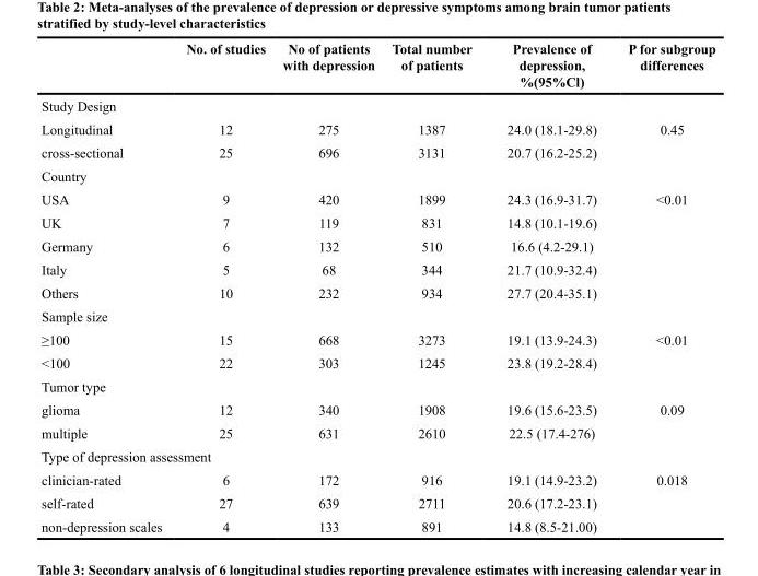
<table><thead><tr><td></td><td>No. of studies</td><td>No of patients with depression</td><td>Total number of patients</td><td>Prevalence of depression, %(95%Cl)</td><td>P for subgroup differences</td></tr></thead><tbody><tr><td colspan="6">Study Design</td></tr><tr><td>Longitudinal</td><td>12</td><td>275</td><td>1387</td><td>24.0 (18.1-29.8)</td><td>0.45</td></tr><tr><td>cross-sectional</td><td>25</td><td>696</td><td>3131</td><td>20.7 (16.2-25.2)</td><td></td></tr><tr><td colspan="6">Country</td></tr><tr><td>USA</td><td>9</td><td>420</td><td>1899</td><td>24.3 (16.9-31.7)</td><td>&lt;0.01</td></tr><tr><td>UK</td><td>7</td><td>119</td><td>831</td><td>14.8 (10.1-19.6)</td><td></td></tr><tr><td>Germany</td><td>6</td><td>132</td><td>510</td><td>16.6 (4.2-29.1)</td><td></td></tr><tr><td>Italy</td><td>5</td><td>68</td><td>344</td><td>21.7 (10.9-32.4)</td><td></td></tr><tr><td>Others</td><td>10</td><td>232</td><td>934</td><td>27.7 (20.4-35.1)</td><td></td></tr><tr><td colspan="6">Sample size</td></tr><tr><td>≥100</td><td>15</td><td>668</td><td>3273</td><td>19.1 (13.9-24.3)</td><td>&lt;0.01</td></tr><tr><td>&lt;100</td><td>22</td><td>303</td><td>1245</td><td>23.8 (19.2-28.4)</td><td></td></tr><tr><td colspan="6">Tumor type</td></tr><tr><td>glioma</td><td>12</td><td>340</td><td>1908</td><td>19.6 (15.6-23.5)</td><td>0.09</td></tr><tr><td>multiple</td><td>25</td><td>631</td><td>2610</td><td>22.5 (17.4-276)</td><td></td></tr><tr><td colspan="6">Type of depression assessment</td></tr><tr><td>clinician-rated</td><td>6</td><td>172</td><td>916</td><td>19.1 (14.9-23.2)</td><td>0.018</td></tr><tr><td>self-rated</td><td>27</td><td>639</td><td>2711</td><td>20.6 (17.2-23.1)</td><td></td></tr><tr><td>non-depression scales</td><td>4</td><td>133</td><td>891</td><td>14.8 (8.5-21.00)</td><td></td></tr></tbody></table>